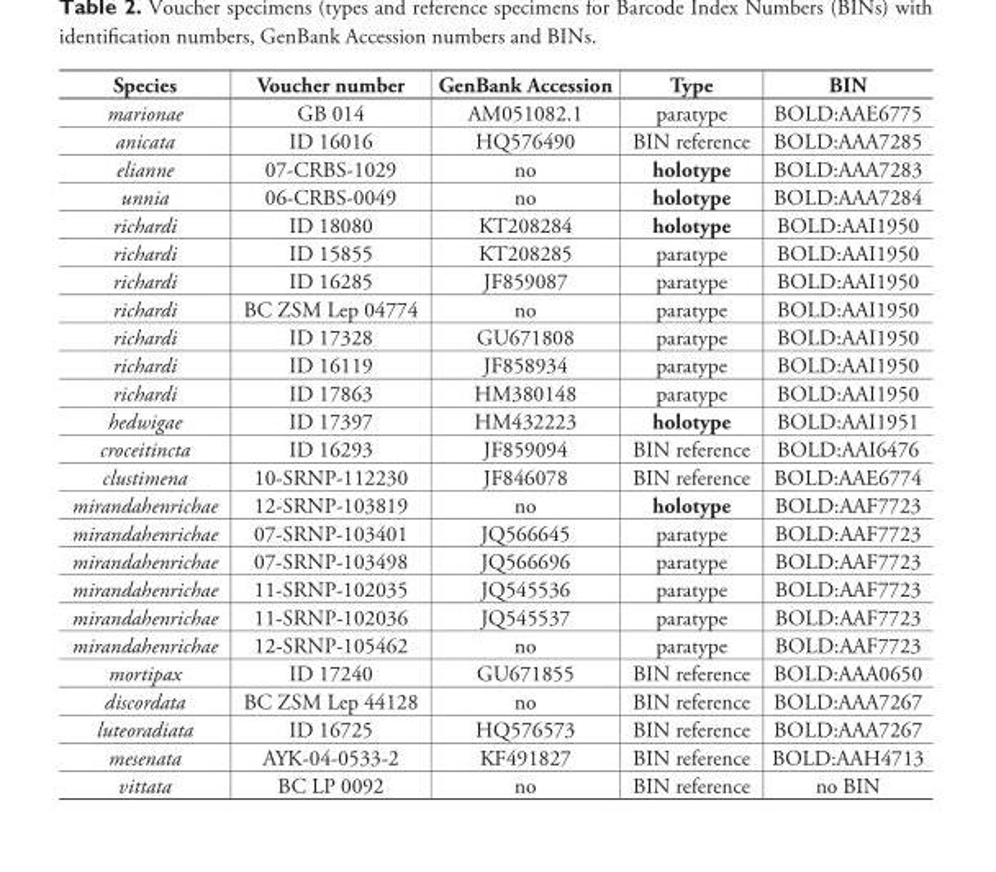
<table><thead><tr><td>Species</td><td>Voucher number</td><td>GenBank Accession</td><td>Type</td><td>BIN</td></tr></thead><tbody><tr><td>marionae</td><td>GB 014</td><td>AM051082.1</td><td>paratype</td><td>BOLD:AAE6775</td></tr><tr><td>anicata</td><td>ID 16016</td><td>HQ576490</td><td>BIN reference</td><td>BOLD:AAA7285</td></tr><tr><td>elianne</td><td>07-CRBS-1029</td><td>no</td><td>holotype</td><td>BOLD:AAA7283</td></tr><tr><td>unnia</td><td>06-CRBS-0049</td><td>no</td><td>holotype</td><td>BOLD:AAA7284</td></tr><tr><td>richardi</td><td>ID 18080</td><td>KT208284</td><td>holotype</td><td>BOLD:AAI1950</td></tr><tr><td>richardi</td><td>ID 15855</td><td>KT208285</td><td>paratype</td><td>BOLD:AAI1950</td></tr><tr><td>richardi</td><td>ID 16285</td><td>JF859087</td><td>paratype</td><td>BOLD:AAI1950</td></tr><tr><td>richardi</td><td>BC ZSM Lep 04774</td><td>no</td><td>paratype</td><td>BOLD:AAI1950</td></tr><tr><td>richardi</td><td>ID 17328</td><td>GU671808</td><td>paratype</td><td>BOLD:AAI1950</td></tr><tr><td>richardi</td><td>ID 16119</td><td>JF858934</td><td>paratype</td><td>BOLD:AAI1950</td></tr><tr><td>richardi</td><td>ID 17863</td><td>HM380148</td><td>paratype</td><td>BOLD:AAI1950</td></tr><tr><td>hedwigae</td><td>ID 17397</td><td>HM432223</td><td>holotype</td><td>BOLD:AAI1951</td></tr><tr><td>croceitincta</td><td>ID 16293</td><td>JF859094</td><td>BIN reference</td><td>BOLD:AAI6476</td></tr><tr><td>clustimena</td><td>10-SRNP-112230</td><td>JF846078</td><td>BIN reference</td><td>BOLD:AAE6774</td></tr><tr><td>mirandahenrichae</td><td>12-SRNP-103819</td><td>no</td><td>holotype</td><td>BOLD:AAF7723</td></tr><tr><td>mirandahenrichae</td><td>07-SRNP-103401</td><td>JQ566645</td><td>paratype</td><td>BOLD:AAF7723</td></tr><tr><td>mirandahenrichae</td><td>07-SRNP-103498</td><td>JQ566696</td><td>paratype</td><td>BOLD:AAF7723</td></tr><tr><td>mirandahenrichae</td><td>11-SRNP-102035</td><td>JQ545536</td><td>paratype</td><td>BOLD:AAF7723</td></tr><tr><td>mirandahenrichae</td><td>11-SRNP-102036</td><td>JQ545537</td><td>paratype</td><td>BOLD:AAF7723</td></tr><tr><td>mirandahenrichae</td><td>12-SRNP-105462</td><td>no</td><td>paratype</td><td>BOLD:AAF7723</td></tr><tr><td>mortipax</td><td>ID 17240</td><td>GU671855</td><td>BIN reference</td><td>BOLD:AAA0650</td></tr><tr><td>discordata</td><td>BC ZSM Lep 44128</td><td>no</td><td>BIN reference</td><td>BOLD:AAA7267</td></tr><tr><td>luteoradiata</td><td>ID 16725</td><td>HQ576573</td><td>BIN reference</td><td>BOLD:AAA7267</td></tr><tr><td>mesenata</td><td>AYK-04-0533-2</td><td>KF491827</td><td>BIN reference</td><td>BOLD:AAH4713</td></tr><tr><td>vittata</td><td>BC LP 0092</td><td>no</td><td>BIN reference</td><td>no BIN</td></tr></tbody></table>